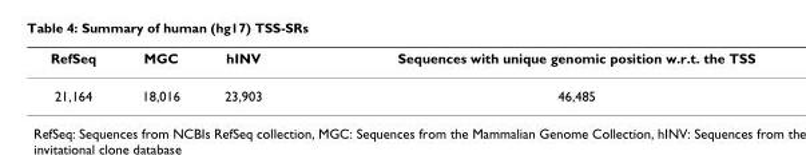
<table><thead><tr><td>RefSeq</td><td>MGC</td><td>hINV</td><td>Sequences with unique genomic position w.r.t. the TSS</td></tr></thead><tbody><tr><td>21,164</td><td>18,016</td><td>23,903</td><td>46,485</td></tr></tbody></table>